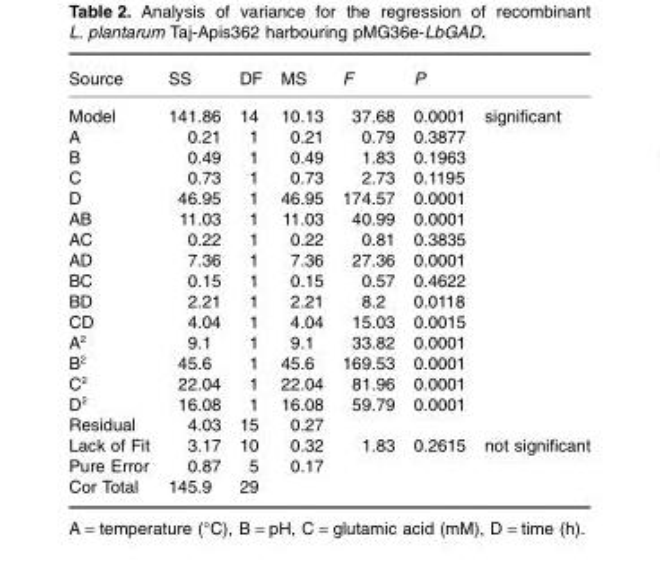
<table><thead><tr><td>Source</td><td>SS</td><td>DF</td><td>MS</td><td>F</td><td>P</td><td></td></tr></thead><tbody><tr><td>Model</td><td>141.86</td><td>14</td><td>10.13</td><td>37.68</td><td>0.0001</td><td>significant</td></tr><tr><td>A</td><td>0.21</td><td>1</td><td>0.21</td><td>0.79</td><td>0.3877</td><td></td></tr><tr><td>B</td><td>0.49</td><td>1</td><td>0.49</td><td>1.83</td><td>0.1963</td><td></td></tr><tr><td>C</td><td>0.73</td><td>1</td><td>0.73</td><td>2.73</td><td>0.1195</td><td></td></tr><tr><td>D</td><td>46.95</td><td>1</td><td>46.95</td><td>174.57</td><td>0.0001</td><td></td></tr><tr><td>AB</td><td>11.03</td><td>1</td><td>11.03</td><td>40.99</td><td>0.0001</td><td></td></tr><tr><td>AC</td><td>0.22</td><td>1</td><td>0.22</td><td>0.81</td><td>0.3835</td><td></td></tr><tr><td>AD</td><td>7.36</td><td>1</td><td>7.36</td><td>27.36</td><td>0.0001</td><td></td></tr><tr><td>BC</td><td>0.15</td><td>1</td><td>0.15</td><td>0.57</td><td>0.4622</td><td></td></tr><tr><td>BD</td><td>2.21</td><td>1</td><td>2.21</td><td>8.2</td><td>0.0118</td><td></td></tr><tr><td>CD</td><td>4.04</td><td>1</td><td>4.04</td><td>15.03</td><td>0.0015</td><td></td></tr><tr><td>A<sup>2</sup></td><td>9.1</td><td>1</td><td>9.1</td><td>33.82</td><td>0.0001</td><td></td></tr><tr><td>B<sup>2</sup></td><td>45.6</td><td>1</td><td>45.6</td><td>169.53</td><td>0.0001</td><td></td></tr><tr><td>C<sup>2</sup></td><td>22.04</td><td>1</td><td>22.04</td><td>81.96</td><td>0.0001</td><td></td></tr><tr><td>D<sup>2</sup></td><td>16.08</td><td>1</td><td>16.08</td><td>59.79</td><td>0.0001</td><td></td></tr><tr><td>Residual</td><td>4.03</td><td>15</td><td>0.27</td><td></td><td></td><td></td></tr><tr><td>Lack of Fit</td><td>3.17</td><td>10</td><td>0.32</td><td>1.83</td><td>0.2615</td><td>not significant</td></tr><tr><td>Pure Error</td><td>0.87</td><td>5</td><td>0.17</td><td></td><td></td><td></td></tr><tr><td>Cor Total</td><td>145.9</td><td>29</td><td></td><td></td><td></td><td></td></tr></tbody></table>